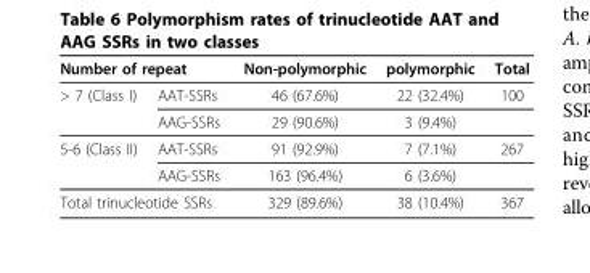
<table><thead><tr><td colspan="2">Number of repeat</td><td rowspan="2">Non-polymorphic 46 (67.6%)</td><td rowspan="2">polymorphic 22 (32.4%)</td><td rowspan="2">Total 100</td></tr><tr><td>&gt; 7 (Class I)</td><td>AAT-SSRs</td></tr></thead><tbody><tr><td></td><td>AAG-SSRs</td><td>29 (90.6%)</td><td>3 (9.4%)</td><td></td></tr><tr><td rowspan="2">5-6 (Class II)</td><td>AAT-SSRs</td><td>91 (92.9%)</td><td>7 (7.1%)</td><td>267</td></tr><tr><td>AAG-SSRs</td><td>163 (96.4%)</td><td>6 (3.6%)</td><td></td></tr><tr><td colspan="2">Total trinucleotide SSRs</td><td>329 (89.6%)</td><td>38 (10.4%)</td><td>367</td></tr></tbody></table>